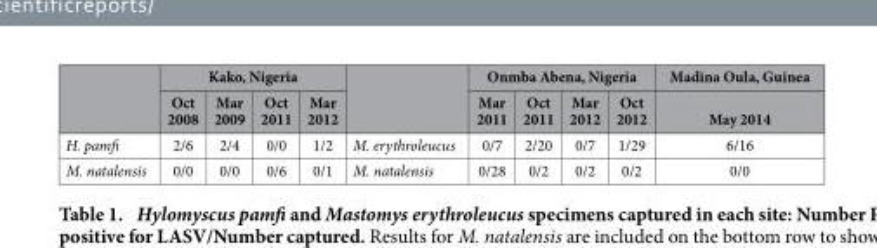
<table><thead><tr><td rowspan="2"></td><td colspan="4">Kako, Nigeria</td><td rowspan="2"></td><td colspan="4">Onmba Abena, Nigeria</td><td rowspan="2">Madina Oula, Guinea May 2014</td></tr><tr><td>Oct 2008</td><td>Mar 2009</td><td>Oct 2011</td><td>Mar 2012</td><td>Mar 2011</td><td>Oct 2011</td><td>Mar 2012</td><td>Oct 2012</td></tr></thead><tbody><tr><td>H. pamfi</td><td>2/6</td><td>2/4</td><td>0/0</td><td>1/2</td><td>M. erythroleucus</td><td>0/7</td><td>2/20</td><td>0/7</td><td>1/29</td><td>6/16</td></tr><tr><td>M. natalensis</td><td>0/0</td><td>0/0</td><td>0/6</td><td>0/1</td><td>M. natalensis</td><td>0/28</td><td>0/2</td><td>0/2</td><td>0/2</td><td>0/0</td></tr></tbody></table>